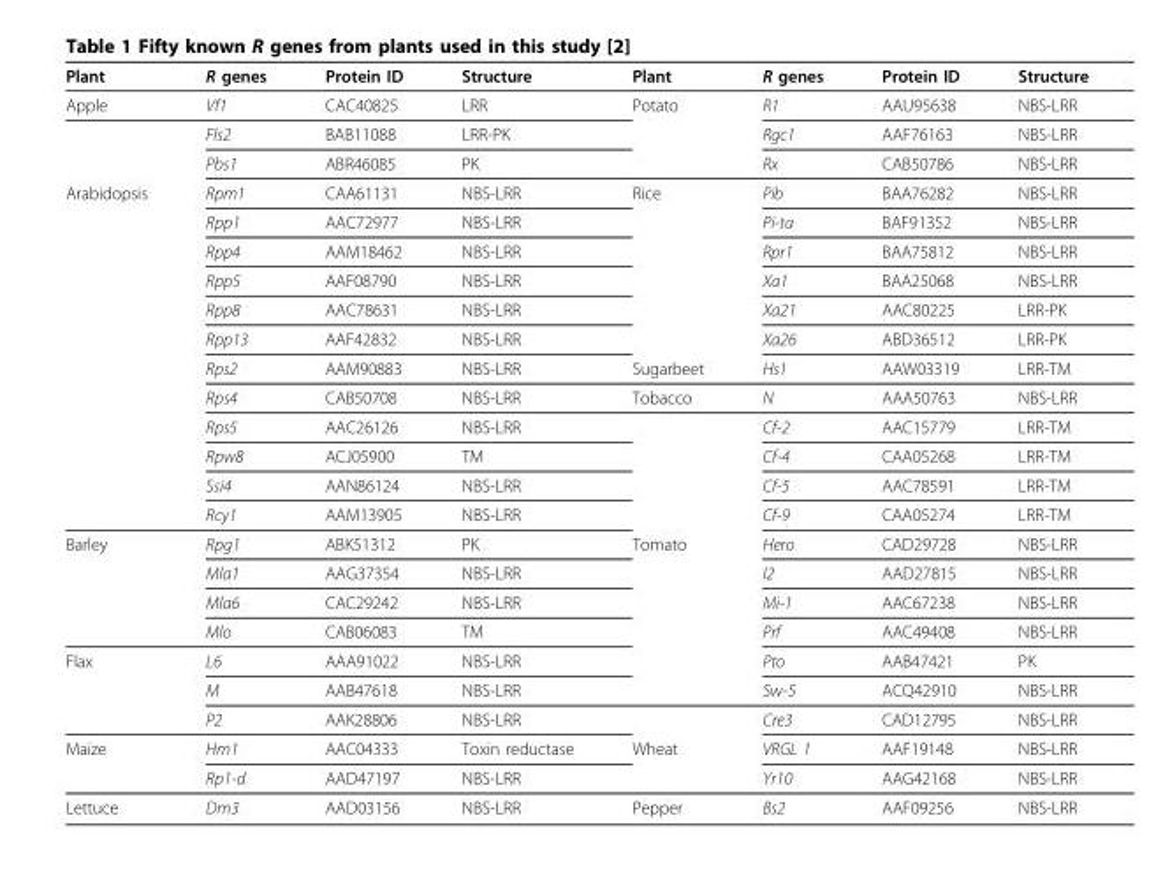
<table><thead><tr><td>Plant</td><td>R genes</td><td>Protein ID</td><td>Structure</td><td>Plant</td><td>R genes</td><td>Protein ID</td><td>Structure</td></tr></thead><tbody><tr><td rowspan="3">Apple</td><td>Vf1</td><td>CAC40825</td><td>LRR</td><td>Potato</td><td>R1</td><td>AAU95638</td><td>NBS-LRR</td></tr><tr><td>Fls2</td><td>BAB11088</td><td>LRR-PK</td><td></td><td>Rgc1</td><td>AAF76163</td><td>NBS-LRR</td></tr><tr><td>Pbs1</td><td>ABR46085</td><td>PK</td><td></td><td>Rx</td><td>CAB50786</td><td>NBS-LRR</td></tr><tr><td rowspan="12">Arabidopsis</td><td>Rpm1</td><td>CAA61131</td><td>NBS-LRR</td><td>Rice</td><td>Pib</td><td>BAA76282</td><td>NBS-LRR</td></tr><tr><td>Rpp1</td><td>AAC72977</td><td>NBS-LRR</td><td></td><td>Pi-ta</td><td>BAF91352</td><td>NBS-LRR</td></tr><tr><td>Rpp4</td><td>AAM18462</td><td>NBS-LRR</td><td></td><td>Rpr1</td><td>BAA75812</td><td>NBS-LRR</td></tr><tr><td>Rpp5</td><td>AAF08790</td><td>NBS-LRR</td><td></td><td>Xa1</td><td>BAA25068</td><td>NBS-LRR</td></tr><tr><td>Rpp8</td><td>AAC78631</td><td>NBS-LRR</td><td></td><td>Xa21</td><td>AAC80225</td><td>LRR-PK</td></tr><tr><td>Rpp13</td><td>AAF42832</td><td>NBS-LRR</td><td></td><td>Xa26</td><td>ABD36512</td><td>LRR-PK</td></tr><tr><td>Rps2</td><td>AAM90883</td><td>NBS-LRR</td><td>Sugarbeet</td><td>Hs1</td><td>AAW03319</td><td>LRR-TM</td></tr><tr><td>Rps4</td><td>CAB50708</td><td>NBS-LRR</td><td>Tobacco</td><td>N</td><td>AAA50763</td><td>NBS-LRR</td></tr><tr><td>Rps5</td><td>AAC26126</td><td>NBS-LRR</td><td></td><td>Cf-2</td><td>AAC15779</td><td>LRR-TM</td></tr><tr><td>Rpw8</td><td>ACJ05900</td><td>TM</td><td></td><td>Cf-4</td><td>CAA05268</td><td>LRR-TM</td></tr><tr><td>Ssi4</td><td>AAN86124</td><td>NBS-LRR</td><td></td><td>Cf-5</td><td>AAC78591</td><td>LRR-TM</td></tr><tr><td>Rcy1</td><td>AAM13905</td><td>NBS-LRR</td><td></td><td>Cf-9</td><td>CAA05274</td><td>LRR-TM</td></tr><tr><td rowspan="4">Barley</td><td>Rpg1</td><td>ABK51312</td><td>PK</td><td>Tomato</td><td>Hero</td><td>CAD29728</td><td>NBS-LRR</td></tr><tr><td>Mla1</td><td>AAG37354</td><td>NBS-LRR</td><td></td><td>I2</td><td>AAD27815</td><td>NBS-LRR</td></tr><tr><td>Mla6</td><td>CAC29242</td><td>NBS-LRR</td><td></td><td>Mi-1</td><td>AAC67238</td><td>NBS-LRR</td></tr><tr><td>Mlo</td><td>CAB06083</td><td>TM</td><td></td><td>Prf</td><td>AAC49408</td><td>NBS-LRR</td></tr><tr><td rowspan="3">Flax</td><td>L6</td><td>AAA91022</td><td>NBS-LRR</td><td></td><td>Pto</td><td>AAB47421</td><td>PK</td></tr><tr><td>M</td><td>AAB47618</td><td>NBS-LRR</td><td></td><td>Sw-5</td><td>ACQ42910</td><td>NBS-LRR</td></tr><tr><td>P2</td><td>AAK28806</td><td>NBS-LRR</td><td></td><td>Cre3</td><td>CAD12795</td><td>NBS-LRR</td></tr><tr><td rowspan="2">Maize</td><td>Hm1</td><td>AAC04333</td><td>Toxin reductase</td><td>Wheat</td><td>VRGL 1</td><td>AAF19148</td><td>NBS-LRR</td></tr><tr><td>Rp1-d</td><td>AAD47197</td><td>NBS-LRR</td><td></td><td>Yr10</td><td>AAG42168</td><td>NBS-LRR</td></tr><tr><td>Lettuce</td><td>Dm3</td><td>AAD03156</td><td>NBS-LRR</td><td>Pepper</td><td>Bs2</td><td>AAF09256</td><td>NBS-LRR</td></tr></tbody></table>